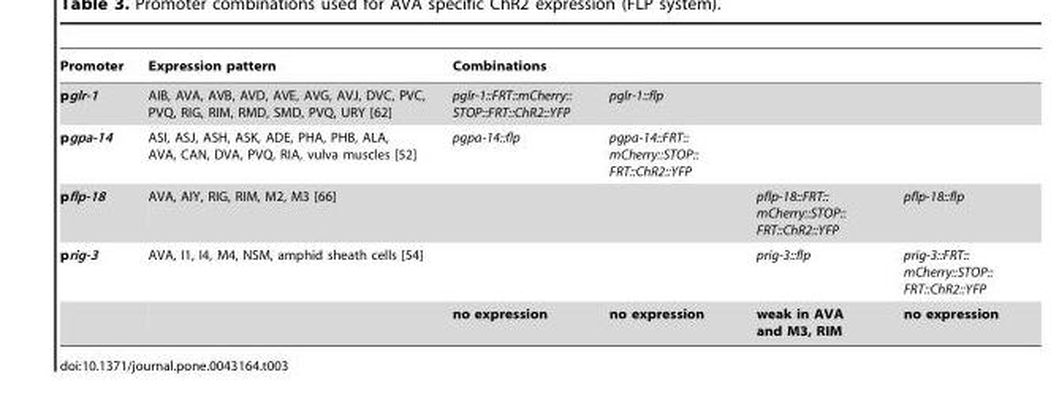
<table><thead><tr><td rowspan="2">Promoter pglr-1</td><td rowspan="2">Expression pattern AIB, AVA, AVB, AVD, AVE, AVG, AVJ, DVC, PVC, PVQ, RIG, RIM, RMD, SMD, PVQ, URY [62]</td><td colspan="4">Combinations</td></tr><tr><td>pglr-1::FRT::mCherry:: STOP::FRT::ChR2::YFP</td><td>pglr-1::flp</td><td></td><td></td></tr></thead><tbody><tr><td>pgpa-14</td><td>ASI, ASJ, ASH, ASK, ADE, PHA, PHB, ALA, AVA, CAN, DVA, PVQ, RIA, vulva muscles [52]</td><td>pgpa-14::flp</td><td>pgpa-14::FRT:: mCherry::STOP:: FRT::ChR2::YFP</td><td></td><td></td></tr><tr><td>pflp-18</td><td>AVA, AIY, RIG, RIM, M2, M3 [66]</td><td></td><td></td><td>pflp-18::FRT:: mCherry::STOP:: FRT::ChR2::YFP</td><td>pflp-18::flp</td></tr><tr><td rowspan="2">prig-3</td><td>AVA, I1, I4, M4, NSM, amphid sheath cells [54]</td><td></td><td></td><td>prig-3::flp</td><td>prig-3::FRT:: mCherry::STOP:: FRT::ChR2::YFP</td></tr><tr><td></td><td>no expression</td><td>no expression</td><td>weak in AVA and M3, RIM</td><td>no expression</td></tr></tbody></table>